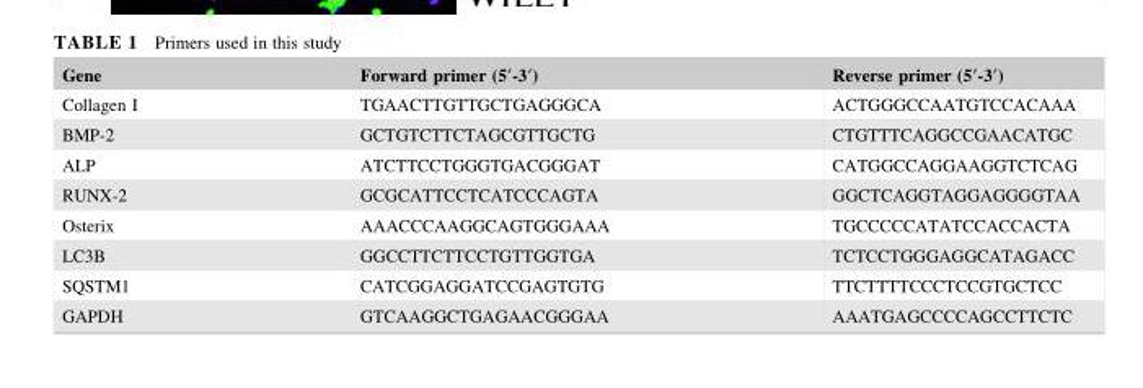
<table><thead><tr><td>Gene</td><td>Forward primer (5′-3′)</td><td>Reverse primer (5′-3′)</td></tr></thead><tbody><tr><td>Collagen I</td><td>TGAACTTGTTGCTGAGGGCA</td><td>ACTGGGCCAATGTCCACAAA</td></tr><tr><td>BMP-2</td><td>GCTGTCTTCTAGCGTTGCTG</td><td>CTGTTTCAGGCCGAACATGC</td></tr><tr><td>ALP</td><td>ATCTTCCTGGGTGACGGGAT</td><td>CATGGCCAGGAAGGTCTCAG</td></tr><tr><td>RUNX-2</td><td>GCGCATTCCTCATCCCAGTA</td><td>GGCTCAGGTAGGAGGGGTAA</td></tr><tr><td>Osterix</td><td>AAACCCAAGGCAGTGGGAAA</td><td>TGCCCCCATATCCACCACTA</td></tr><tr><td>LC3B</td><td>GGCCTTCTTCCTGTTGGTGA</td><td>TCTCCTGGGAGGCATAGACC</td></tr><tr><td>SQSTM1</td><td>CATCGGAGGATCCGAGTGTG</td><td>TTCTTTTCCCTCCGTGCTCC</td></tr><tr><td>GAPDH</td><td>GTCAAGGCTGAGAACGGGAA</td><td>AAATGAGCCCCAGCCTTCTC</td></tr></tbody></table>